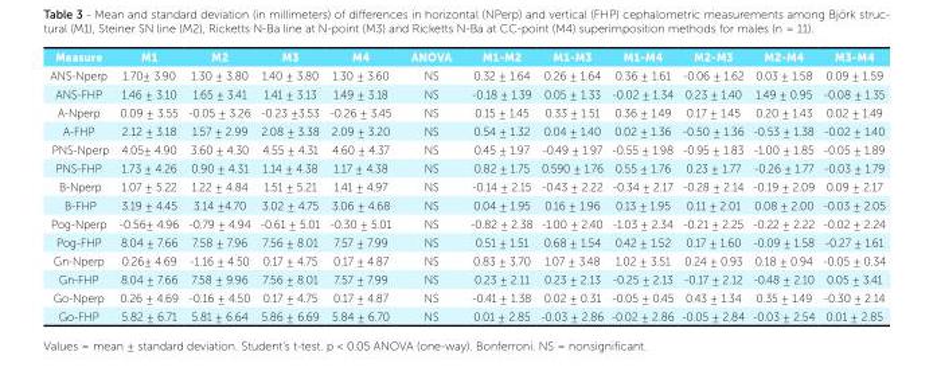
<table><thead><tr><td>Measure</td><td>M1</td><td>M2</td><td>M3</td><td>M4</td><td>ANOVA</td><td>M1-M2</td><td>M1-M3</td><td>M1-M4</td><td>M2-M3</td><td>M2-M4</td><td>M3-M4</td></tr></thead><tbody><tr><td>ANS-Nperp</td><td>1.70± 3.90</td><td>1.30 ± 3.80</td><td>1.40 ± 3.80</td><td>1.30 ± 3.60</td><td>NS</td><td>0.32 ± 1.64</td><td>0.26 ± 1.64</td><td>0.36 ± 1.61</td><td>-0.06 ± 1.62</td><td>0.03 ± 1.58</td><td>0.09 ± 1.59</td></tr><tr><td>ANS-FHP</td><td>1.46 ± 3.10</td><td>1.65 ± 3.41</td><td>1.41 ± 3.13</td><td>1.49 ± 3.18</td><td>NS</td><td>-0.18 ± 1.39</td><td>0.05 ± 1.33</td><td>-0.02 ± 1.34</td><td>0.23 ± 1.40</td><td>1.49 ± 0.95</td><td>-0.08 ± 1.35</td></tr><tr><td>A-Nperp</td><td>0.09 ± 3.55</td><td>-0.05 ± 3.26</td><td>-0.23 ±3.53</td><td>-0.26 ± 3.45</td><td>NS</td><td>0.15 ± 1.45</td><td>0.33 ± 1.51</td><td>0.36 ± 1.49</td><td>0.17 ± 1.45</td><td>0.20 ± 1.43</td><td>0.02 ± 1.49</td></tr><tr><td>A-FHP</td><td>2.12 ± 3.18</td><td>1.57 ± 2.99</td><td>2.08 ± 3.38</td><td>2.09 ± 3.20</td><td>NS</td><td>0.54 ± 1.32</td><td>0.04 ± 1.40</td><td>0.02 ± 1.36</td><td>-0.50 ± 1.36</td><td>-0.53 ± 1.38</td><td>-0.02 ± 1.40</td></tr><tr><td>PNS-Nperp</td><td>4.05± 4.90</td><td>3.60 ± 4.30</td><td>4.55 ± 4.31</td><td>4.60 ± 4.37</td><td>NS</td><td>0.45 ± 1.97</td><td>-0.49 ± 1.97</td><td>-0.55 ± 1.98</td><td>-0.95 ± 1.83</td><td>-1.00 ± 1.85</td><td>-0.05 ± 1.89</td></tr><tr><td>PNS-FHP</td><td>1.73 ± 4.26</td><td>0.90 ± 4.31</td><td>1.14 ± 4.38</td><td>1.17 ± 4.38</td><td>NS</td><td>0.82 ± 1.75</td><td>0.590 ± 1.76</td><td>0.55 ± 1.76</td><td>0.23 ± 1.77</td><td>-0.26 ± 1.77</td><td>-0.03 ± 1.79</td></tr><tr><td>B-Nperp</td><td>1.07 ± 5.22</td><td>1.22 ± 4.84</td><td>1.51 ± 5.21</td><td>1.41 ± 4.97</td><td>NS</td><td>-0.14 ± 2.15</td><td>-0.43 ± 2.22</td><td>-0.34 ± 2.17</td><td>-0.28 ± 2.14</td><td>-0.19 ± 2.09</td><td>0.09 ± 2.17</td></tr><tr><td>B-FHP</td><td>3.19 ± 4.45</td><td>3.14 ±4.70</td><td>3.02 ± 4.75</td><td>3.06 ± 4.68</td><td>NS</td><td>0.04 ± 1.95</td><td>0.16 ± 1.96</td><td>0.13 ± 1.95</td><td>0.11 ± 2.01</td><td>0.08 ± 2.00</td><td>-0.03 ± 2.05</td></tr><tr><td>Pog-Nperp</td><td>-0.56± 4.96</td><td>-0.79 ± 4.94</td><td>-0.61 ± 5.01</td><td>-0.30 ± 5.01</td><td>NS</td><td>-0.82 ± 2.38</td><td>-1.00 ± 2.40</td><td>-1.03 ± 2.34</td><td>-0.21 ± 2.25</td><td>-0.22 ± 2.22</td><td>-0.02 ± 2.24</td></tr><tr><td>Pog-FHP</td><td>8.04 ± 7.66</td><td>7.58 ± 7.96</td><td>7.56 ± 8.01</td><td>7.57 ± 7.99</td><td>NS</td><td>0.51 ± 1.51</td><td>0.68 ± 1.54</td><td>0.42 ± 1.52</td><td>0.17 ± 1.60</td><td>-0.09 ± 1.58</td><td>-0.27 ± 1.61</td></tr><tr><td>Gn-Nperp</td><td>0.26± 4.69</td><td>-1.16 ± 4.50</td><td>0.17 ± 4.75</td><td>0.17 ± 4.87</td><td>NS</td><td>0.83 ± 3.70</td><td>1.07 ± 3.48</td><td>1.02 ± 3.51</td><td>0.24 ± 0.93</td><td>0.18 ± 0.94</td><td>-0.05 ± 0.34</td></tr><tr><td>Gn-FHP</td><td>8.04 ± 7.66</td><td>7.58 ± 9.96</td><td>7.56 ± 8.01</td><td>7.57 ± 7.99</td><td>NS</td><td>0.23 ± 2.11</td><td>0.23 ± 2.13</td><td>-0.25 ± 2.13</td><td>-0.17 ± 2.12</td><td>-0.48 ± 2.10</td><td>0.05 ± 3.41</td></tr><tr><td>Go-Nperp</td><td>0.26 ± 4.69</td><td>-0.16 ± 4.50</td><td>0.17 ± 4.75</td><td>0.17 ± 4.87</td><td>NS</td><td>-0.41 ± 1.38</td><td>0.02 ± 0.31</td><td>-0.05 ± 0.45</td><td>0.43 ± 1.34</td><td>0.35 ± 1.49</td><td>-0.30 ± 2.14</td></tr><tr><td>Go-FHP</td><td>5.82 ± 6.71</td><td>5.81 ± 6.64</td><td>5.86 ± 6.69</td><td>5.84 ± 6.70</td><td>NS</td><td>0.01 ± 2.85</td><td>-0.03 ± 2.86</td><td>-0.02 ± 2.86</td><td>-0.05 ± 2.84</td><td>-0.03 ± 2.54</td><td>0.01 ± 2.85</td></tr></tbody></table>